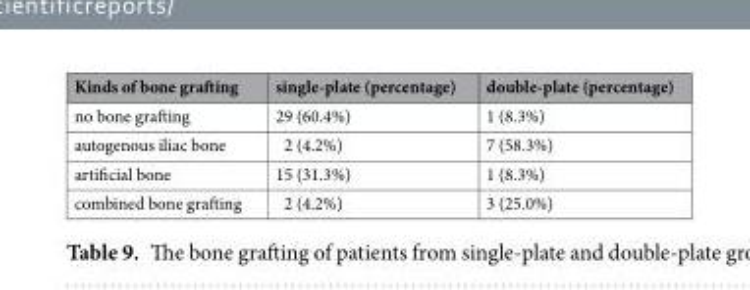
<table><thead><tr><td>Kinds of bone grafting</td><td>single-plate (percentage)</td><td>double-plate (percentage)</td></tr></thead><tbody><tr><td>no bone grafting</td><td>29 (60.4%)</td><td>1 (8.3%)</td></tr><tr><td>autogenous iliac bone</td><td>2 (4.2%)</td><td>7 (58.3%)</td></tr><tr><td>artificial bone</td><td>15 (31.3%)</td><td>1 (8.3%)</td></tr><tr><td>combined bone grafting</td><td>2 (4.2%)</td><td>3 (25.0%)</td></tr></tbody></table>